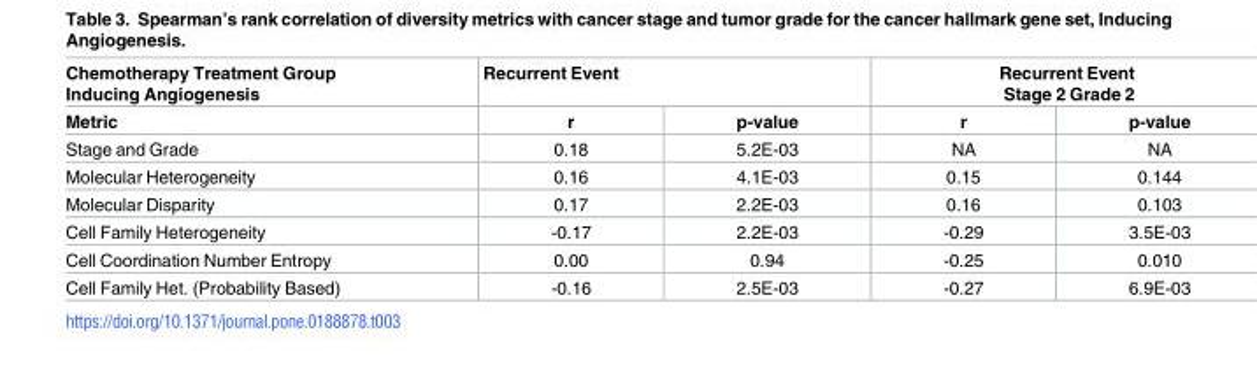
<table><thead><tr><td rowspan="2">Chemotherapy Treatment Group Inducing Angiogenesis Metric</td><td colspan="2">Recurrent Event</td><td colspan="2">Recurrent Event Stage 2 Grade 2</td></tr><tr><td>r</td><td>p-value</td><td>r</td><td>p-value</td></tr></thead><tbody><tr><td>Stage and Grade</td><td>0.18</td><td>5.2E-03</td><td>NA</td><td>NA</td></tr><tr><td>Molecular Heterogeneity</td><td>0.16</td><td>4.1E-03</td><td>0.15</td><td>0.144</td></tr><tr><td>Molecular Disparity</td><td>0.17</td><td>2.2E-03</td><td>0.16</td><td>0.103</td></tr><tr><td>Cell Family Heterogeneity</td><td>-0.17</td><td>2.2E-03</td><td>-0.29</td><td>3.5E-03</td></tr><tr><td>Cell Coordination Number Entropy</td><td>0.00</td><td>0.94</td><td>-0.25</td><td>0.010</td></tr><tr><td>Cell Family Het. (Probability Based)</td><td>-0.16</td><td>2.5E-03</td><td>-0.27</td><td>6.9E-03</td></tr></tbody></table>